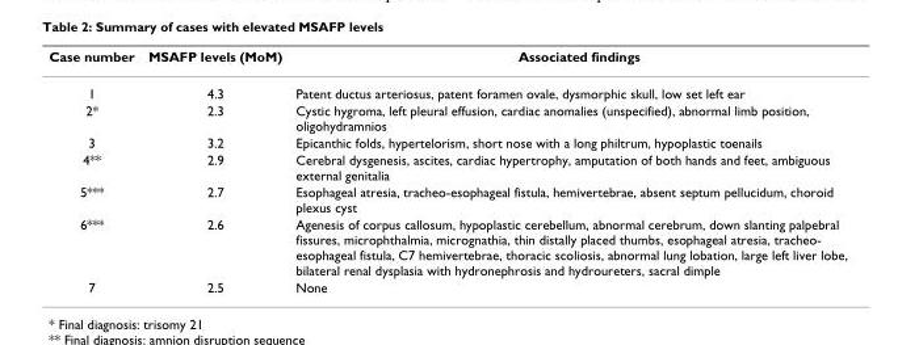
<table><thead><tr><td>Case number</td><td>MSAFP levels (MoM)</td><td>Associated findings</td></tr></thead><tbody><tr><td>1</td><td>4.3</td><td>Patent ductus arteriosus, patent foramen ovale, dysmorphic skull, low set left ear</td></tr><tr><td>2*</td><td>2.3</td><td>Cystic hygroma, left pleural effusion, cardiac anomalies (unspecified), abnormal limb position, oligohydramnios</td></tr><tr><td>3</td><td>3.2</td><td>Epicanthic folds, hypertelorism, short nose with a long philtrum, hypoplastic toenails</td></tr><tr><td>4**</td><td>2.9</td><td>Cerebral dysgenesis, ascites, cardiac hypertrophy, amputation of both hands and feet, ambiguous external genitalia</td></tr><tr><td>5***</td><td>2.7</td><td>Esophageal atresia, tracheo-esophageal fistula, hemivertebrae, absent septum pellucidum, choroid plexus cyst</td></tr><tr><td>6***</td><td>2.6</td><td>Agenesis of corpus callosum, hypoplastic cerebellum, abnormal cerebrum, down slanting palpebral fissures, microphthalmia, micrognathia, thin distally placed thumbs, esophageal atresia, tracheo- esophageal fistula, C7 hemivertebrae, thoracic scoliosis, abnormal lung lobation, large left liver lobe, bilateral renal dysplasia with hydronephrosis and hydroureters, sacral dimple</td></tr><tr><td>7</td><td>2.5</td><td>None</td></tr></tbody></table>